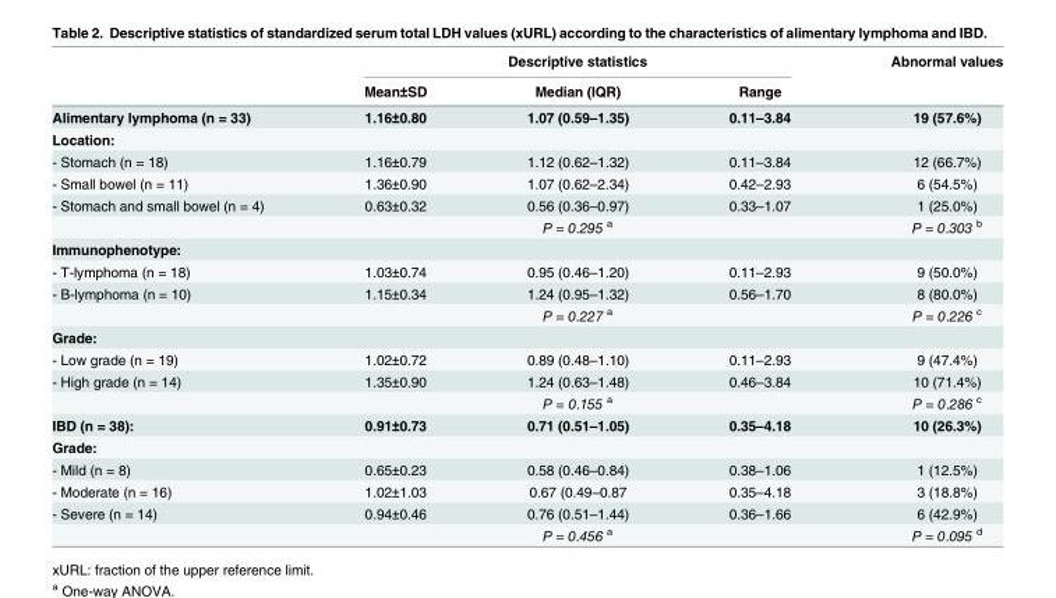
<table><thead><tr><td rowspan="2"></td><td colspan="3">Descriptive statistics</td><td rowspan="2">Abnormal values</td></tr><tr><td>Mean±SD</td><td>Median (IQR)</td><td>Range</td></tr></thead><tbody><tr><td>Alimentary lymphoma (n = 33)</td><td>1.16±0.80</td><td>1.07 (0.59–1.35)</td><td>0.11–3.84</td><td>19 (57.6%)</td></tr><tr><td colspan="5">Location:</td></tr><tr><td>- Stomach (n = 18)</td><td>1.16±0.79</td><td>1.12 (0.62–1.32)</td><td>0.11–3.84</td><td>12 (66.7%)</td></tr><tr><td>- Small bowel (n = 11)</td><td>1.36±0.90</td><td>1.07 (0.62–2.34)</td><td>0.42–2.93</td><td>6 (54.5%)</td></tr><tr><td rowspan="2">- Stomach and small bowel (n = 4)</td><td>0.63±0.32</td><td>0.56 (0.36–0.97)</td><td>0.33–1.07</td><td>1 (25.0%)</td></tr><tr><td colspan="3">P = 0.295 <sup>a</sup></td><td>P = 0.303 <sup>b</sup></td></tr><tr><td colspan="5">Immunophenotype:</td></tr><tr><td>- T-lymphoma (n = 18)</td><td>1.03±0.74</td><td>0.95 (0.46–1.20)</td><td>0.11–2.93</td><td>9 (50.0%)</td></tr><tr><td rowspan="2">- B-lymphoma (n = 10)</td><td>1.15±0.34</td><td>1.24 (0.95–1.32)</td><td>0.56–1.70</td><td>8 (80.0%)</td></tr><tr><td colspan="3">P = 0.227 <sup>a</sup></td><td>P = 0.226 <sup>c</sup></td></tr><tr><td colspan="5">Grade:</td></tr><tr><td>- Low grade (n = 19)</td><td>1.02±0.72</td><td>0.89 (0.48–1.10)</td><td>0.11–2.93</td><td>9 (47.4%)</td></tr><tr><td rowspan="2">- High grade (n = 14)</td><td>1.35±0.90</td><td>1.24 (0.63–1.48)</td><td>0.46–3.84</td><td>10 (71.4%)</td></tr><tr><td colspan="3">P = 0.155 <sup>a</sup></td><td>P = 0.286 <sup>c</sup></td></tr><tr><td>IBD (n = 38):</td><td>0.91±0.73</td><td>0.71 (0.51–1.05)</td><td>0.35–4.18</td><td>10 (26.3%)</td></tr><tr><td colspan="5">Grade:</td></tr><tr><td>- Mild (n = 8)</td><td>0.65±0.23</td><td>0.58 (0.46–0.84)</td><td>0.38–1.06</td><td>1 (12.5%)</td></tr><tr><td>- Moderate (n = 16)</td><td>1.02±1.03</td><td>0.67 (0.49–0.87</td><td>0.35–4.18</td><td>3 (18.8%)</td></tr><tr><td rowspan="2">- Severe (n = 14)</td><td>0.94±0.46</td><td>0.76 (0.51–1.44)</td><td>0.36–1.66</td><td>6 (42.9%)</td></tr><tr><td colspan="3">P = 0.456 <sup>a</sup></td><td>P = 0.095 <sup>d</sup></td></tr></tbody></table>